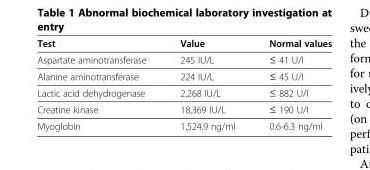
<table><thead><tr><td>Test</td><td>Value</td><td>Normal values</td></tr></thead><tbody><tr><td>Aspartate aminotransferase</td><td>245 IU/L</td><td>≤ 41 U/I</td></tr><tr><td>Alanine aminotransferase</td><td>224 IU/L</td><td>≤ 45 U/I</td></tr><tr><td>Lactic acid dehydrogenase</td><td>2,268 IU/L</td><td>≤ 882 U/I</td></tr><tr><td>Creatine kinase</td><td>18,369 IU/L</td><td>≤ 190 U/I</td></tr><tr><td>Myoglobin</td><td>1,524.9 ng/ml</td><td>0.6-6.3 ng/ml</td></tr></tbody></table>